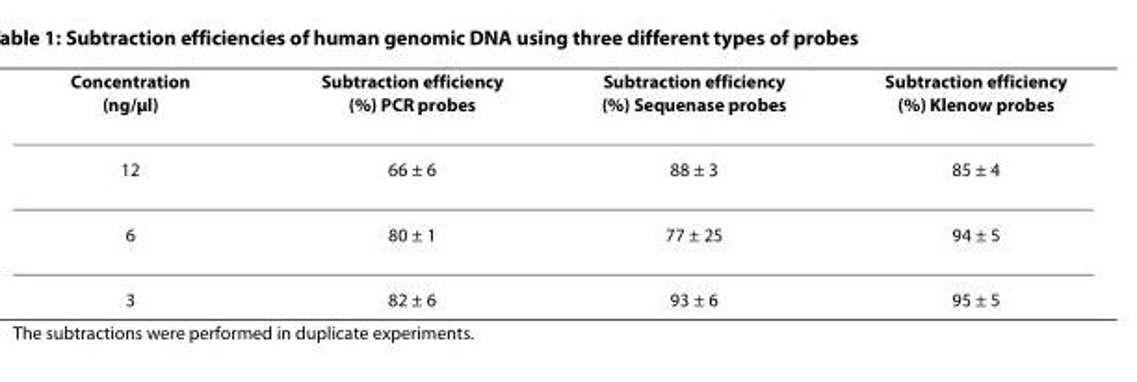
<table><thead><tr><td>Concentration (ng/μl)</td><td>Subtraction efficiency (%) PCR probes</td><td>Subtraction efficiency (%) Sequenase probes</td><td>Subtraction efficiency (%) Klenow probes</td></tr></thead><tbody><tr><td>12</td><td>66 ± 6</td><td>88 ± 3</td><td>85 ± 4</td></tr><tr><td>6</td><td>80 ± 1</td><td>77 ± 25</td><td>94 ± 5</td></tr><tr><td>3</td><td>82 ± 6</td><td>93 ± 6</td><td>95 ± 5</td></tr></tbody></table>